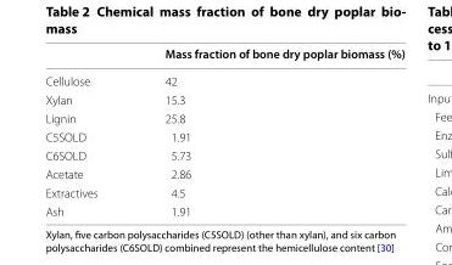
<table><thead><tr><td></td><td>Mass fraction of bone dry poplar biomass (%)</td></tr></thead><tbody><tr><td>Cellulose</td><td>42</td></tr><tr><td>Xylan</td><td>15.3</td></tr><tr><td>Lignin</td><td>25.8</td></tr><tr><td>C5SOLD</td><td>1.91</td></tr><tr><td>C6SOLD</td><td>5.73</td></tr><tr><td>Acetate</td><td>2.86</td></tr><tr><td>Extractives</td><td>4.5</td></tr><tr><td>Ash</td><td>1.91</td></tr></tbody></table>